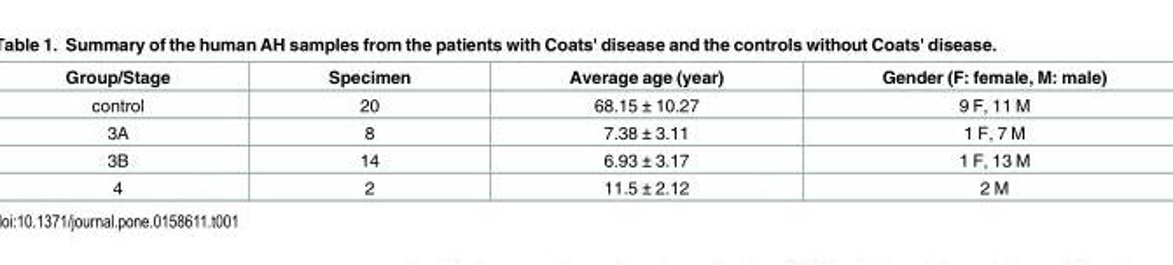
<table><thead><tr><td>Group/Stage</td><td>Specimen</td><td>Average age (year)</td><td>Gender (F: female, M: male)</td></tr></thead><tbody><tr><td>control</td><td>20</td><td>68.15 ± 10.27</td><td>9 F, 11 M</td></tr><tr><td>3A</td><td>8</td><td>7.38 ± 3.11</td><td>1 F, 7 M</td></tr><tr><td>3B</td><td>14</td><td>6.93 ± 3.17</td><td>1 F, 13 M</td></tr><tr><td>4</td><td>2</td><td>11.5 ± 2.12</td><td>2 M</td></tr></tbody></table>